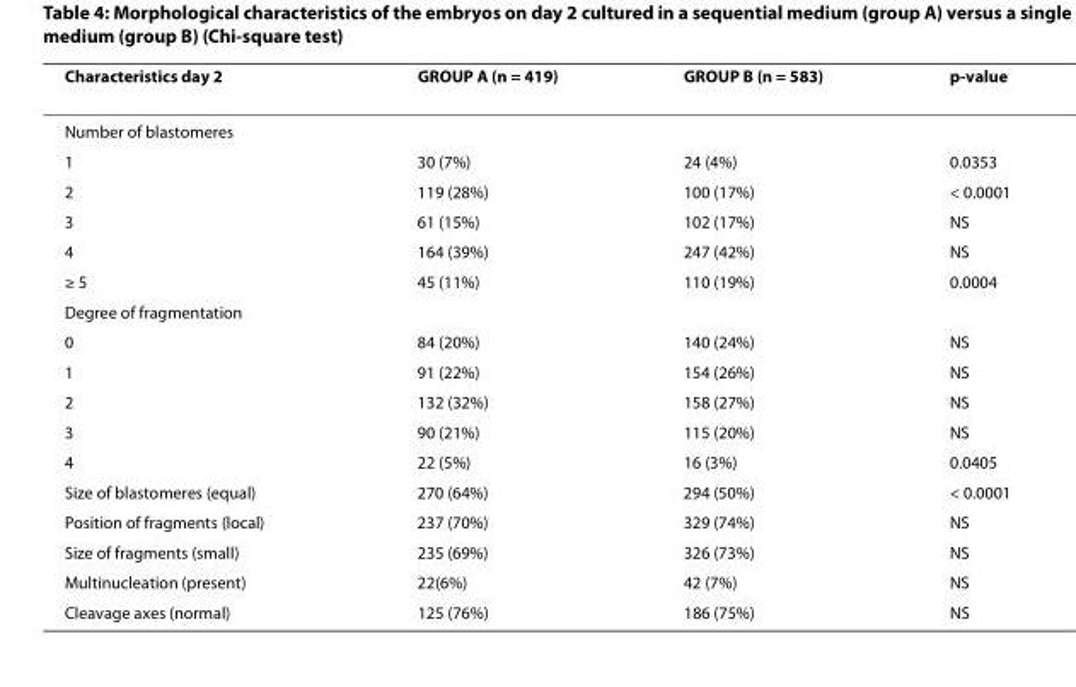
<table><thead><tr><td>Characteristics day 2</td><td>GROUP A (n = 419)</td><td>GROUP B (n = 583)</td><td>p-value</td></tr></thead><tbody><tr><td colspan="4">Number of blastomeres</td></tr><tr><td>1</td><td>30 (7%)</td><td>24 (4%)</td><td>0.0353</td></tr><tr><td>2</td><td>119 (28%)</td><td>100 (17%)</td><td>&lt; 0.0001</td></tr><tr><td>3</td><td>61 (15%)</td><td>102 (17%)</td><td>NS</td></tr><tr><td>4</td><td>164 (39%)</td><td>247 (42%)</td><td>NS</td></tr><tr><td>≥ 5</td><td>45 (11%)</td><td>110 (19%)</td><td>0.0004</td></tr><tr><td colspan="4">Degree of fragmentation</td></tr><tr><td>0</td><td>84 (20%)</td><td>140 (24%)</td><td>NS</td></tr><tr><td>1</td><td>91 (22%)</td><td>154 (26%)</td><td>NS</td></tr><tr><td>2</td><td>132 (32%)</td><td>158 (27%)</td><td>NS</td></tr><tr><td>3</td><td>90 (21%)</td><td>115 (20%)</td><td>NS</td></tr><tr><td>4</td><td>22 (5%)</td><td>16 (3%)</td><td>0.0405</td></tr><tr><td>Size of blastomeres (equal)</td><td>270 (64%)</td><td>294 (50%)</td><td>&lt; 0.0001</td></tr><tr><td>Position of fragments (local)</td><td>237 (70%)</td><td>329 (74%)</td><td>NS</td></tr><tr><td>Size of fragments (small)</td><td>235 (69%)</td><td>326 (73%)</td><td>NS</td></tr><tr><td>Multinucleation (present)</td><td>22(6%)</td><td>42 (7%)</td><td>NS</td></tr><tr><td>Cleavage axes (normal)</td><td>125 (76%)</td><td>186 (75%)</td><td>NS</td></tr></tbody></table>